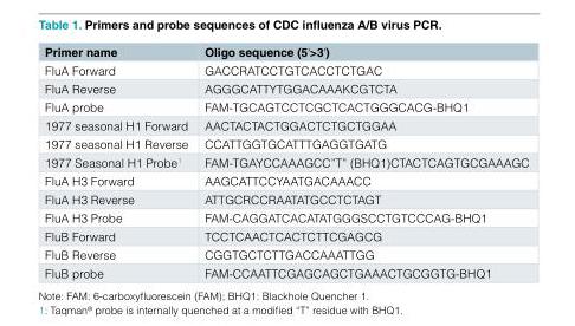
<table><thead><tr><td>Primer name</td><td>Oligo sequence (5&#x27;&gt;3&#x27;)</td></tr></thead><tbody><tr><td>FluA Forward</td><td>GACCRATCCTGTCACCTCTGAC</td></tr><tr><td>FluA Reverse</td><td>AGGGCATTYTGGACAAAKCGTCTA</td></tr><tr><td>FluA probe</td><td>FAM-TGCAGTCCTCGCTCACTGGGCACG-BHQ1</td></tr><tr><td>1977 seasonal H1 Forward</td><td>AACTACTACTGGACTCTGCTGGAA</td></tr><tr><td>1977 seasonal H1 Reverse</td><td>CCATTGGTGCATTTGAGGTGATG</td></tr><tr><td>1977 Seasonal H1 Probe<sup>1</sup></td><td>FAM-TGAYCCAAAGCC”T” (BHQ1)CTACTCAGTGCGAAAGC</td></tr><tr><td>FluA H3 Forward</td><td>AAGCATTCCYAATGACAAACC</td></tr><tr><td>FluA H3 Reverse</td><td>ATTGCRCCRAATATGCCTCTAGT</td></tr><tr><td>FluA H3 Probe</td><td>FAM-CAGGATCACATATGGGSCCTGTCCCAG-BHQ1</td></tr><tr><td>FluB Forward</td><td>TCCTCAACTCACTCTTCGAGCG</td></tr><tr><td>FluB Reverse</td><td>CGGTGCTCTTGACCAAATTGG</td></tr><tr><td>FluB probe</td><td>FAM-CCAATTCGAGCAGCTGAAACTGCGGTG-BHQ1</td></tr></tbody></table>